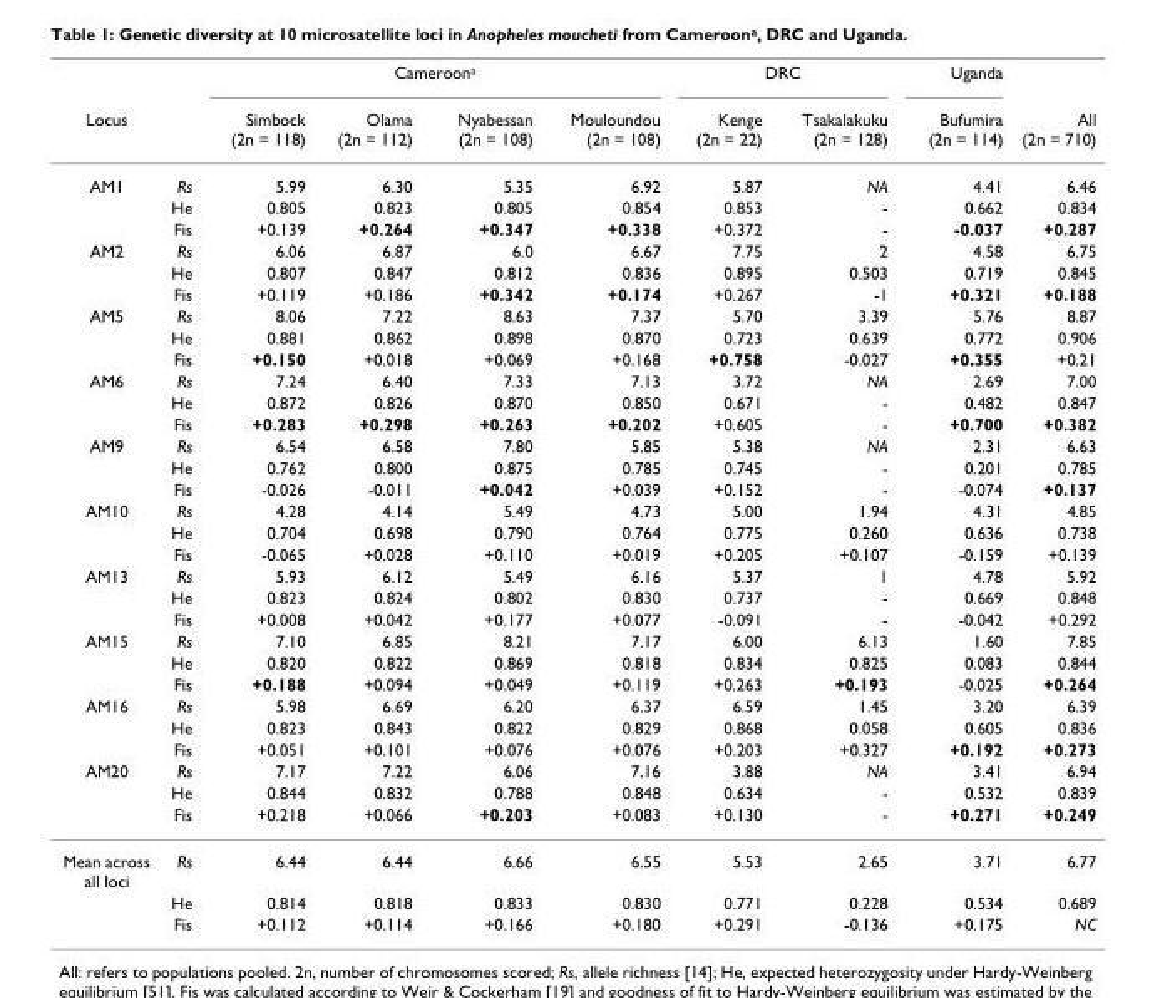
<table><thead><tr><td rowspan="2">Locus</td><td rowspan="2"></td><td colspan="4">Cameroon<sup>a</sup></td><td colspan="2">DRC</td><td rowspan="2">Uganda Bufumira (2n = 114)</td><td rowspan="2">All (2n = 710)</td></tr><tr><td>Simbock (2n = 118)</td><td>Olama (2n = 112)</td><td>Nyabessan (2n = 108)</td><td>Mouloundou (2n = 108)</td><td>Kenge (2n = 22)</td><td>Tsakalakuku (2n = 128)</td></tr></thead><tbody><tr><td rowspan="3">AM1</td><td>Rs</td><td>5.99</td><td>6.30</td><td>5.35</td><td>6.92</td><td>5.87</td><td>NA</td><td>4.41</td><td>6.46</td></tr><tr><td>He</td><td>0.805</td><td>0.823</td><td>0.805</td><td>0.854</td><td>0.853</td><td>-</td><td>0.662</td><td>0.834</td></tr><tr><td>Fis</td><td>+0.139</td><td>+0.264</td><td>+0.347</td><td>+0.338</td><td>+0.372</td><td>-</td><td>-0.037</td><td>+0.287</td></tr><tr><td rowspan="3">AM2</td><td>Rs</td><td>6.06</td><td>6.87</td><td>6.0</td><td>6.67</td><td>7.75</td><td>2</td><td>4.58</td><td>6.75</td></tr><tr><td>He</td><td>0.807</td><td>0.847</td><td>0.812</td><td>0.836</td><td>0.895</td><td>0.503</td><td>0.719</td><td>0.845</td></tr><tr><td>Fis</td><td>+0.119</td><td>+0.186</td><td>+0.342</td><td>+0.174</td><td>+0.267</td><td>-1</td><td>+0.321</td><td>+0.188</td></tr><tr><td rowspan="3">AM5</td><td>Rs</td><td>8.06</td><td>7.22</td><td>8.63</td><td>7.37</td><td>5.70</td><td>3.39</td><td>5.76</td><td>8.87</td></tr><tr><td>He</td><td>0.881</td><td>0.862</td><td>0.898</td><td>0.870</td><td>0.723</td><td>0.639</td><td>0.772</td><td>0.906</td></tr><tr><td>Fis</td><td>+0.150</td><td>+0.018</td><td>+0.069</td><td>+0.168</td><td>+0.758</td><td>-0.027</td><td>+0.355</td><td>+0.21</td></tr><tr><td rowspan="3">AM6</td><td>Rs</td><td>7.24</td><td>6.40</td><td>7.33</td><td>7.13</td><td>3.72</td><td>NA</td><td>2.69</td><td>7.00</td></tr><tr><td>He</td><td>0.872</td><td>0.826</td><td>0.870</td><td>0.850</td><td>0.671</td><td>-</td><td>0.482</td><td>0.847</td></tr><tr><td>Fis</td><td>+0.283</td><td>+0.298</td><td>+0.263</td><td>+0.202</td><td>+0.605</td><td>-</td><td>+0.700</td><td>+0.382</td></tr><tr><td rowspan="3">AM9</td><td>Rs</td><td>6.54</td><td>6.58</td><td>7.80</td><td>5.85</td><td>5.38</td><td>NA</td><td>2.31</td><td>6.63</td></tr><tr><td>He</td><td>0.762</td><td>0.800</td><td>0.875</td><td>0.785</td><td>0.745</td><td>-</td><td>0.201</td><td>0.785</td></tr><tr><td>Fis</td><td>-0.026</td><td>-0.011</td><td>+0.042</td><td>+0.039</td><td>+0.152</td><td>-</td><td>-0.074</td><td>+0.137</td></tr><tr><td rowspan="3">AM10</td><td>Rs</td><td>4.28</td><td>4.14</td><td>5.49</td><td>4.73</td><td>5.00</td><td>1.94</td><td>4.31</td><td>4.85</td></tr><tr><td>He</td><td>0.704</td><td>0.698</td><td>0.790</td><td>0.764</td><td>0.775</td><td>0.260</td><td>0.636</td><td>0.738</td></tr><tr><td>Fis</td><td>-0.065</td><td>+0.028</td><td>+0.110</td><td>+0.019</td><td>+0.205</td><td>+0.107</td><td>-0.159</td><td>+0.139</td></tr><tr><td rowspan="3">AM13</td><td>Rs</td><td>5.93</td><td>6.12</td><td>5.49</td><td>6.16</td><td>5.37</td><td>1</td><td>4.78</td><td>5.92</td></tr><tr><td>He</td><td>0.823</td><td>0.824</td><td>0.802</td><td>0.830</td><td>0.737</td><td>-</td><td>0.669</td><td>0.848</td></tr><tr><td>Fis</td><td>+0.008</td><td>+0.042</td><td>+0.177</td><td>+0.077</td><td>-0.091</td><td>-</td><td>-0.042</td><td>+0.292</td></tr><tr><td rowspan="3">AM15</td><td>Rs</td><td>7.10</td><td>6.85</td><td>8.21</td><td>7.17</td><td>6.00</td><td>6.13</td><td>1.60</td><td>7.85</td></tr><tr><td>He</td><td>0.820</td><td>0.822</td><td>0.869</td><td>0.818</td><td>0.834</td><td>0.825</td><td>0.083</td><td>0.844</td></tr><tr><td>Fis</td><td>+0.188</td><td>+0.094</td><td>+0.049</td><td>+0.119</td><td>+0.263</td><td>+0.193</td><td>-0.025</td><td>+0.264</td></tr><tr><td rowspan="3">AM16</td><td>Rs</td><td>5.98</td><td>6.69</td><td>6.20</td><td>6.37</td><td>6.59</td><td>1.45</td><td>3.20</td><td>6.39</td></tr><tr><td>He</td><td>0.823</td><td>0.843</td><td>0.822</td><td>0.829</td><td>0.868</td><td>0.058</td><td>0.605</td><td>0.836</td></tr><tr><td>Fis</td><td>+0.051</td><td>+0.101</td><td>+0.076</td><td>+0.076</td><td>+0.203</td><td>+0.327</td><td>+0.192</td><td>+0.273</td></tr><tr><td rowspan="3">AM20</td><td>Rs</td><td>7.17</td><td>7.22</td><td>6.06</td><td>7.16</td><td>3.88</td><td>NA</td><td>3.41</td><td>6.94</td></tr><tr><td>He</td><td>0.844</td><td>0.832</td><td>0.788</td><td>0.848</td><td>0.634</td><td>-</td><td>0.532</td><td>0.839</td></tr><tr><td>Fis</td><td>+0.218</td><td>+0.066</td><td>+0.203</td><td>+0.083</td><td>+0.130</td><td>-</td><td>+0.271</td><td>+0.249</td></tr><tr><td rowspan="3">Mean across all loci</td><td>Rs</td><td>6.44</td><td>6.44</td><td>6.66</td><td>6.55</td><td>5.53</td><td>2.65</td><td>3.71</td><td>6.77</td></tr><tr><td>He</td><td>0.814</td><td>0.818</td><td>0.833</td><td>0.830</td><td>0.771</td><td>0.228</td><td>0.534</td><td>0.689</td></tr><tr><td>Fis</td><td>+0.112</td><td>+0.114</td><td>+0.166</td><td>+0.180</td><td>+0.291</td><td>-0.136</td><td>+0.175</td><td>NC</td></tr></tbody></table>